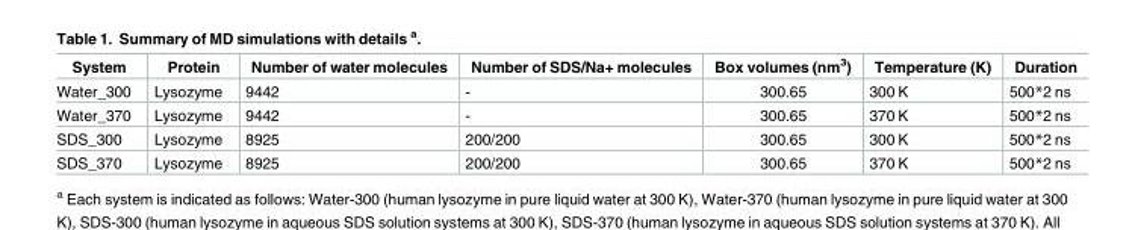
<table><thead><tr><td>System</td><td>Protein</td><td>Number of water molecules</td><td>Number of SDS/Na+ molecules</td><td>Box volumes (nm<sup>3</sup>)</td><td>Temperature (K)</td><td>Duration</td></tr></thead><tbody><tr><td>Water_300</td><td>Lysozyme</td><td>9442</td><td>-</td><td>300.65</td><td>300 K</td><td>500*2 ns</td></tr><tr><td>Water_370</td><td>Lysozyme</td><td>9442</td><td>-</td><td>300.65</td><td>370 K</td><td>500*2 ns</td></tr><tr><td>SDS_300</td><td>Lysozyme</td><td>8925</td><td>200/200</td><td>300.65</td><td>300 K</td><td>500*2 ns</td></tr><tr><td>SDS_370</td><td>Lysozyme</td><td>8925</td><td>200/200</td><td>300.65</td><td>370 K</td><td>500*2 ns</td></tr></tbody></table>